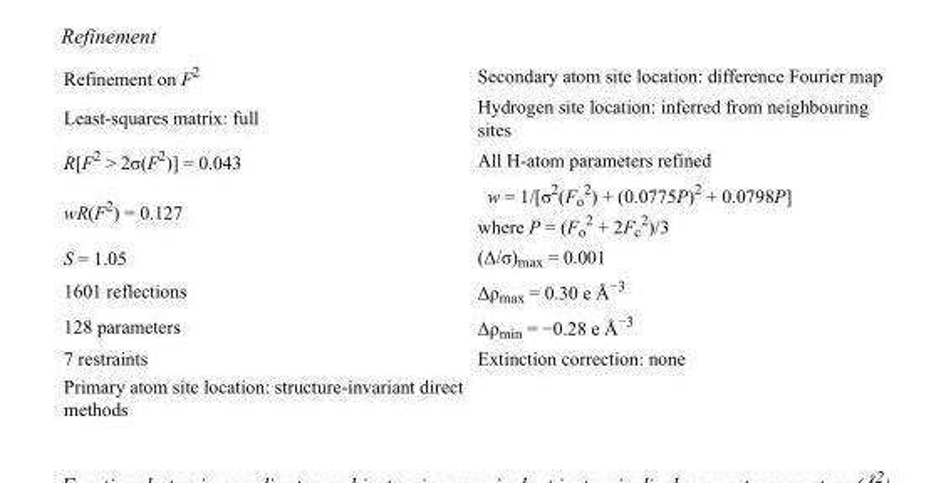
<table><tbody><tr><td>Refinement on F<sup>2</sup></td><td>Secondary atom site location: difference Fourier map</td></tr><tr><td>Least-squares matrix: full</td><td>Hydrogen site location: inferred from neighbouring sites</td></tr><tr><td>R[F<sup>2</sup> &gt; 2σ(F<sup>2</sup>)] = 0.043</td><td>All H-atom parameters refined</td></tr><tr><td>wR(F<sup>2</sup>) = 0.127</td><td>w = 1/[σ<sup>2</sup>(F<sub>o</sub> <sup>2</sup>) + (0.0775P)<sup>2</sup> + 0.0798P] where P = (F<sub>o</sub> <sup>2</sup> + 2F<sub>c</sub> <sup>2</sup>)/3</td></tr><tr><td>S = 1.05</td><td>(Δ/σ)<sub>max</sub> = 0.001</td></tr><tr><td>1601 reflections</td><td>Δρ<sub>max</sub> = 0.30 e Å<sup>−3</sup></td></tr><tr><td>128 parameters</td><td>Δρ<sub>min</sub> = −0.28 e Å<sup>−3</sup></td></tr><tr><td>7 restraints</td><td>Extinction correction: none</td></tr><tr><td>Primary atom site location: structure-invariant direct methods</td><td></td></tr></tbody></table>